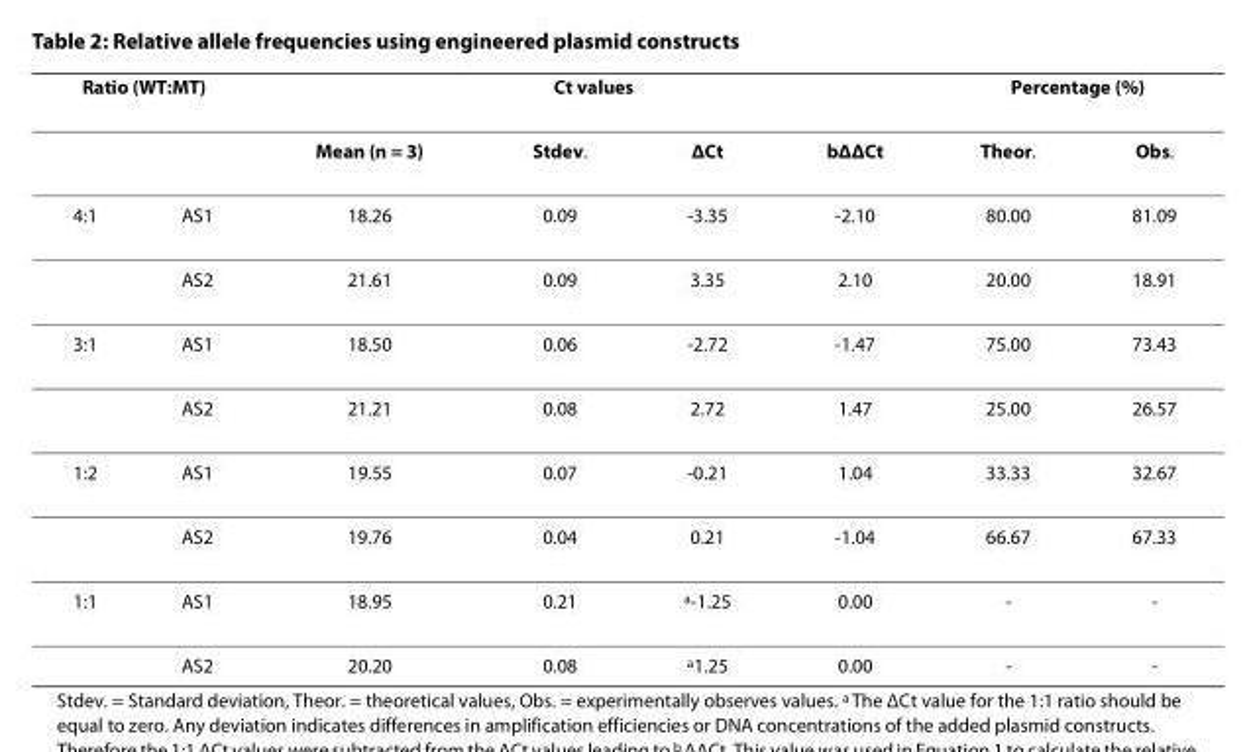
<table><thead><tr><td colspan="2">Ratio (WT:MT)</td><td colspan="4">Ct values</td><td colspan="2">Percentage (%)</td></tr><tr><td></td><td></td><td>Mean (n = 3)</td><td>Stdev.</td><td>ΔCt</td><td><sup>b</sup>ΔΔCt</td><td>Theor.</td><td>Obs.</td></tr></thead><tbody><tr><td rowspan="2">4:1</td><td>AS1</td><td>18.26</td><td>0.09</td><td>-3.35</td><td>-2.10</td><td>80.00</td><td>81.09</td></tr><tr><td>AS2</td><td>21.61</td><td>0.09</td><td>3.35</td><td>2.10</td><td>20.00</td><td>18.91</td></tr><tr><td rowspan="2">3:1</td><td>AS1</td><td>18.50</td><td>0.06</td><td>-2.72</td><td>-1.47</td><td>75.00</td><td>73.43</td></tr><tr><td>AS2</td><td>21.21</td><td>0.08</td><td>2.72</td><td>1.47</td><td>25.00</td><td>26.57</td></tr><tr><td rowspan="2">1:2</td><td>AS1</td><td>19.55</td><td>0.07</td><td>-0.21</td><td>1.04</td><td>33.33</td><td>32.67</td></tr><tr><td>AS2</td><td>19.76</td><td>0.04</td><td>0.21</td><td>-1.04</td><td>66.67</td><td>67.33</td></tr><tr><td rowspan="2">1:1</td><td>AS1</td><td>18.95</td><td>0.21</td><td><sup>a</sup>-1.25</td><td>0.00</td><td>-</td><td>-</td></tr><tr><td>AS2</td><td>20.20</td><td>0.08</td><td><sup>a</sup>1.25</td><td>0.00</td><td>-</td><td>-</td></tr></tbody></table>